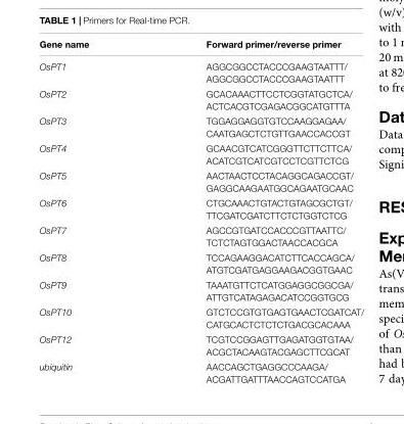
<table><thead><tr><td>Gene name</td><td>Forward primer/reverse primer</td></tr></thead><tbody><tr><td>OsPT1</td><td>AGGCGGCCTACCCGAAGTAATTT/ AGGCGGCCTACCCGAAGTAATTT</td></tr><tr><td>OsPT2</td><td>GCACAAACTTCCTCGGTATGCTCA/ ACTCACGTCGAGACGGCATGTTTA</td></tr><tr><td>OsPT3</td><td>TGGAGGAGGTGTCCAAGGAGAA/ CAATGAGCTCTGTTGAACCACCGT</td></tr><tr><td>OsPT4</td><td>GCAACGTCATCGGGTTCTTCTTCA/ ACATCGTCATCGTCCTCGTTCTCG</td></tr><tr><td>OsPT5</td><td>AACTAACTCCTACAGGCAGACCGT/ GAGGCAAGAATGGCAGAATGCAAC</td></tr><tr><td>OsPT6</td><td>CTGCAAACTGTACTGTAGCGCTGT/ TTCGATCGATCTTCTCTGGTCTCG</td></tr><tr><td>OsPT7</td><td>AGCCGTGATCCACCCGTTAATTC/ TCTCTAGTGGACTAACCACGCA</td></tr><tr><td>OsPT8</td><td>TCCAGAAGGACATCTTCACCAGCA/ ATGTCGATGAGGAAGACGGTGAAC</td></tr><tr><td>OsPT9</td><td>TAAATGTTCTCATGGAGGCGGCGA/ ATTGTCATAGAGACATCCGGTGCG</td></tr><tr><td>OsPT10</td><td>GTCTCCGTGTGAGTGAACTCGATCAT/ CATGCACTCTCTCTGACGCACAAA</td></tr><tr><td>OsPT12</td><td>TCGTCCGGAGTTGAGATGGTGTAA/ ACGCTACAAGTACGAGCTTCGCAT</td></tr><tr><td>ubiquitin</td><td>AACCAGCTGAGGCCCAAGA/ ACGATTGATTTAACCAGTCCATGA</td></tr></tbody></table>